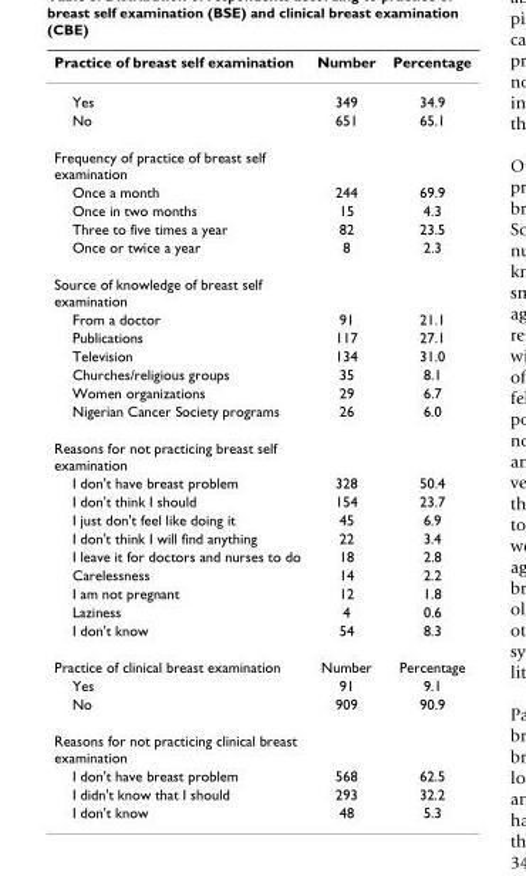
<table><thead><tr><td>Practice of breast self examination</td><td>Number</td><td>Percentage</td></tr></thead><tbody><tr><td>Yes</td><td>349</td><td>34.9</td></tr><tr><td>No</td><td>651</td><td>65.1</td></tr><tr><td colspan="3">Frequency of practice of breast self examination</td></tr><tr><td>Once a month</td><td>244</td><td>69.9</td></tr><tr><td>Once in two months</td><td>15</td><td>4.3</td></tr><tr><td>Three to five times a year</td><td>82</td><td>23.5</td></tr><tr><td>Once or twice a year</td><td>8</td><td>2.3</td></tr><tr><td colspan="3">Source of knowledge of breast self examination</td></tr><tr><td>From a doctor</td><td>91</td><td>21.1</td></tr><tr><td>Publications</td><td>117</td><td>27.1</td></tr><tr><td>Television</td><td>134</td><td>31.0</td></tr><tr><td>Churches/religious groups</td><td>35</td><td>8.1</td></tr><tr><td>Women organizations</td><td>29</td><td>6.7</td></tr><tr><td>Nigerian Cancer Society programs</td><td>26</td><td>6.0</td></tr><tr><td colspan="3">Reasons for not practicing breast self examination</td></tr><tr><td>I don&#x27;t have breast problem</td><td>328</td><td>50.4</td></tr><tr><td>I don&#x27;t think I should</td><td>154</td><td>23.7</td></tr><tr><td>I just don&#x27;t feel like doing it</td><td>45</td><td>6.9</td></tr><tr><td>I don&#x27;t think I will find anything</td><td>22</td><td>3.4</td></tr><tr><td>I leave it for doctors and nurses to do</td><td>18</td><td>2.8</td></tr><tr><td>Carelessness</td><td>14</td><td>2.2</td></tr><tr><td>I am not pregnant</td><td>12</td><td>1.8</td></tr><tr><td>Laziness</td><td>4</td><td>0.6</td></tr><tr><td>I don&#x27;t know</td><td>54</td><td>8.3</td></tr><tr><td>Practice of clinical breast examination</td><td>Number</td><td>Percentage</td></tr><tr><td>Yes</td><td>91</td><td>9.1</td></tr><tr><td>No</td><td>909</td><td>90.9</td></tr><tr><td colspan="3">Reasons for not practicing clinical breast examination</td></tr><tr><td>I don&#x27;t have breast problem</td><td>568</td><td>62.5</td></tr><tr><td>I didn&#x27;t know that I should</td><td>293</td><td>32.2</td></tr><tr><td>I don&#x27;t know</td><td>48</td><td>5.3</td></tr></tbody></table>